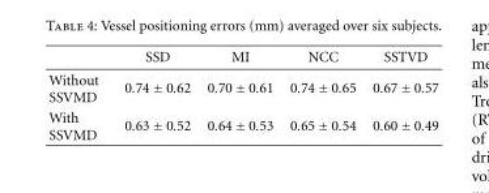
<table><thead><tr><td></td><td>SSD</td><td>MI</td><td>NCC</td><td>SSTVD</td></tr></thead><tbody><tr><td>Without SSVMD</td><td>0.74 ± 0.62</td><td>0.70 ± 0.61</td><td>0.74 ± 0.65</td><td>0.67 ± 0.57</td></tr><tr><td>With SSVMD</td><td>0.63 ± 0.52</td><td>0.64 ± 0.53</td><td>0.65 ± 0.54</td><td>0.60 ± 0.49</td></tr></tbody></table>